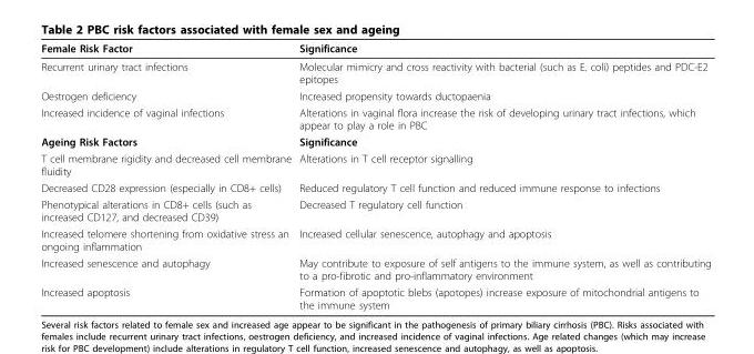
<table><thead><tr><td>Female Risk Factor</td><td>Significance</td></tr></thead><tbody><tr><td>Recurrent urinary tract infections</td><td>Molecular mimicry and cross reactivity with bacterial (such as E. coli) peptides and PDC-E2 epitopes</td></tr><tr><td>Oestrogen deficiency</td><td>Increased propensity towards ductopaenia</td></tr><tr><td>Increased incidence of vaginal infections</td><td>Alterations in vaginal flora increase the risk of developing urinary tract infections, which appear to play a role in PBC</td></tr><tr><td>Ageing Risk Factors</td><td>Significance</td></tr><tr><td>T cell membrane rigidity and decreased cell membrane fluidity</td><td>Alterations in T cell receptor signalling</td></tr><tr><td>Decreased CD28 expression (especially in CD8+ cells)</td><td>Reduced regulatory T cell function and reduced immune response to infections</td></tr><tr><td>Phenotypical alterations in CD8+ cells (such as increased CD127, and decreased CD39)</td><td>Decreased T regulatory cell function</td></tr><tr><td>Increased telomere shortening from oxidative stress an ongoing inflammation</td><td>Increased cellular senescence, autophagy and apoptosis</td></tr><tr><td>Increased senescence and autophagy</td><td>May contribute to exposure of self antigens to the immune system, as well as contributing to a pro-fibrotic and pro-inflammatory environment</td></tr><tr><td>Increased apoptosis</td><td>Formation of apoptotic blebs (apotopes) increase exposure of mitochondrial antigens to the immune system</td></tr></tbody></table>